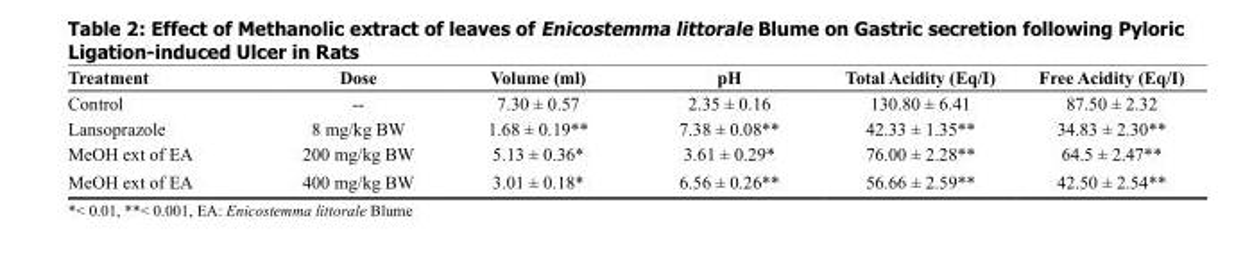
<table><thead><tr><td>Treatment</td><td>Dose</td><td>Volume (ml)</td><td>pH</td><td>Total Acidity (Eq/I)</td><td>Free Acidity (Eq/I)</td></tr></thead><tbody><tr><td>Control</td><td>--</td><td>7.30 ± 0.57</td><td>2.35 ± 0.16</td><td>130.80 ± 6.41</td><td>87.50 ± 2.32</td></tr><tr><td>Lansoprazole</td><td>8 mg/kg BW</td><td>1.68 ± 0.19**</td><td>7.38 ± 0.08**</td><td>42.33 ± 1.35**</td><td>34.83 ± 2.30**</td></tr><tr><td>MeOH ext of EA</td><td>200 mg/kg BW</td><td>5.13 ± 0.36*</td><td>3.61 ± 0.29*</td><td>76.00 ± 2.28**</td><td>64.5 ± 2.47**</td></tr><tr><td>MeOH ext of EA</td><td>400 mg/kg BW</td><td>3.01 ± 0.18*</td><td>6.56 ± 0.26**</td><td>56.66 ± 2.59**</td><td>42.50 ± 2.54**</td></tr></tbody></table>